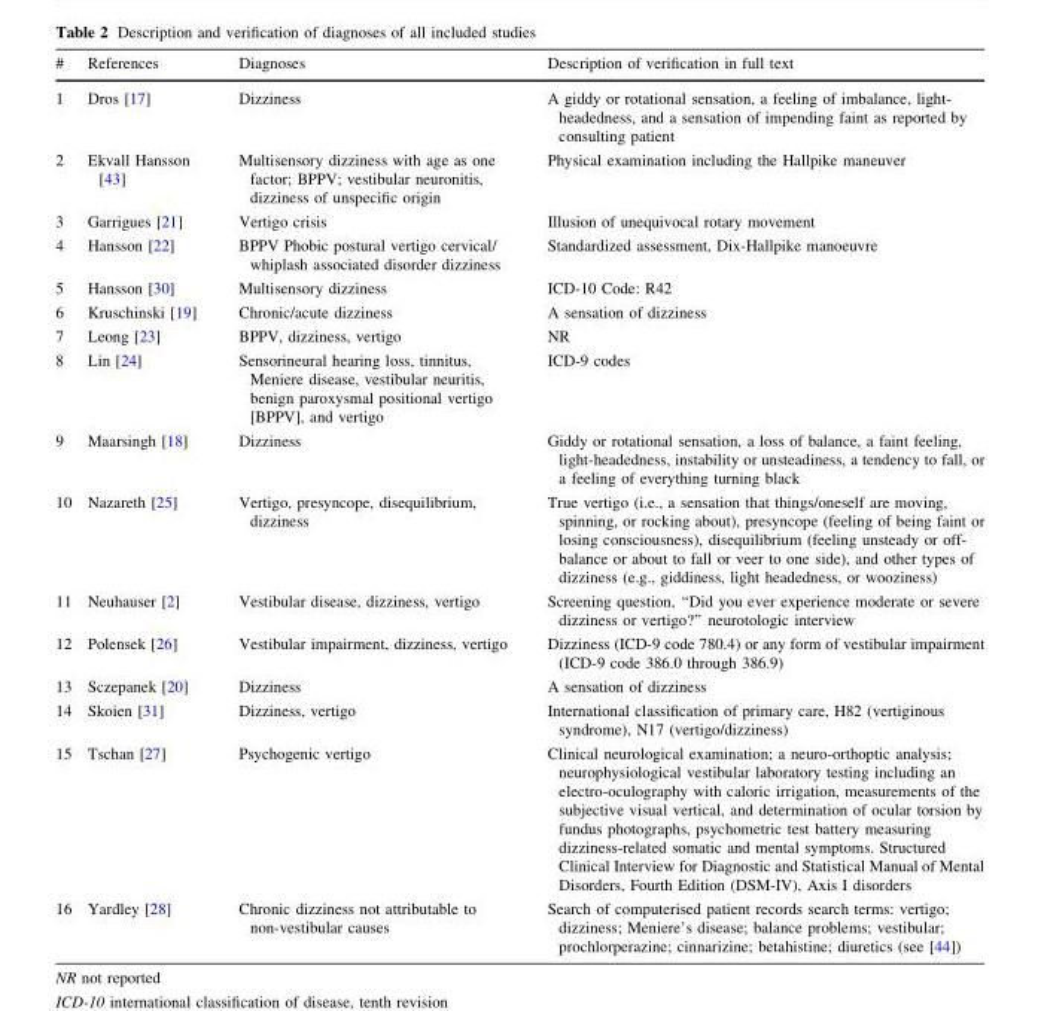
<table><thead><tr><td>#</td><td>References</td><td>Diagnoses</td><td>Description of verification in full text</td></tr></thead><tbody><tr><td>1</td><td>Dros [17]</td><td>Dizziness</td><td>A giddy or rotational sensation, a feeling of imbalance, light- headedness, and a sensation of impending faint as reported by consulting patient</td></tr><tr><td>2</td><td>Ekvall Hansson [43]</td><td>Multisensory dizziness with age as one factor; BPPV; vestibular neuronitis, dizziness of unspecific origin</td><td>Physical examination including the Hallpike maneuver</td></tr><tr><td>3</td><td>Garrigues [21]</td><td>Vertigo crisis</td><td>Illusion of unequivocal rotary movement</td></tr><tr><td>4</td><td>Hansson [22]</td><td>BPPV Phobic postural vertigo cervical/ whiplash associated disorder dizziness</td><td>Standardized assessment, Dix-Hallpike manoeuvre</td></tr><tr><td>5</td><td>Hansson [30]</td><td>Multisensory dizziness</td><td>ICD-10 Code: R42</td></tr><tr><td>6</td><td>Kruschinski [19]</td><td>Chronic/acute dizziness</td><td>A sensation of dizziness</td></tr><tr><td>7</td><td>Leong [23]</td><td>BPPV, dizziness, vertigo</td><td>NR</td></tr><tr><td>8</td><td>Lin [24]</td><td>Sensorineural hearing loss, tinnitus, Meniere disease, vestibular neuritis, benign paroxysmal positional vertigo [BPPV], and vertigo</td><td>ICD-9 codes</td></tr><tr><td>9</td><td>Maarsingh [18]</td><td>Dizziness</td><td>Giddy or rotational sensation, a loss of balance, a faint feeling, light-headedness, instability or unsteadiness, a tendency to fall, or a feeling of everything turning black</td></tr><tr><td>10</td><td>Nazareth [25]</td><td>Vertigo, presyncope, disequilibrium, dizziness</td><td>True vertigo (i.e., a sensation that things/oneself are moving, spinning, or rocking about), presyncope (feeling of being faint or losing consciousness), disequilibrium (feeling unsteady or off- balance or about to fall or veer to one side), and other types of dizziness (e.g., giddiness, light headedness, or wooziness)</td></tr><tr><td>11</td><td>Neuhauser [2]</td><td>Vestibular disease, dizziness, vertigo</td><td>Screening question, ‘‘Did you ever experience moderate or severe dizziness or vertigo?’’ neurotologic interview</td></tr><tr><td>12</td><td>Polensek [26]</td><td>Vestibular impairment, dizziness, vertigo</td><td>Dizziness (ICD-9 code 780.4) or any form of vestibular impairment (ICD-9 code 386.0 through 386.9)</td></tr><tr><td>13</td><td>Sczepanek [20]</td><td>Dizziness</td><td>A sensation of dizziness</td></tr><tr><td>14</td><td>Skoien [31]</td><td>Dizziness, vertigo</td><td>International classification of primary care, H82 (vertiginous syndrome), N17 (vertigo/dizziness)</td></tr><tr><td>15</td><td>Tschan [27]</td><td>Psychogenic vertigo</td><td>Clinical neurological examination; a neuro-orthoptic analysis; neurophysiological vestibular laboratory testing including an electro-oculography with caloric irrigation, measurements of the subjective visual vertical, and determination of ocular torsion by fundus photographs, psychometric test battery measuring dizziness-related somatic and mental symptoms. Structured Clinical Interview for Diagnostic and Statistical Manual of Mental Disorders, Fourth Edition (DSM-IV), Axis I disorders</td></tr><tr><td>16</td><td>Yardley [28]</td><td>Chronic dizziness not attributable to non-vestibular causes</td><td>Search of computerised patient records search terms: vertigo; dizziness; Meniere’s disease; balance problems; vestibular; prochlorperazine; cinnarizine; betahistine; diuretics (see [44])</td></tr></tbody></table>